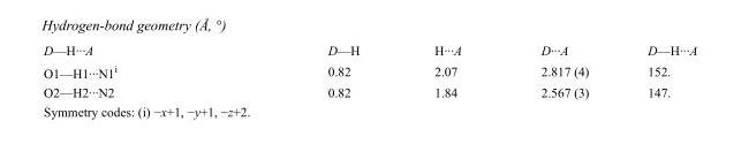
<table><tbody><tr><td>D—H···A</td><td>D—H</td><td>H···A</td><td>D···A</td><td>D—H···A</td></tr><tr><td>O1—H1···N1<sup>i</sup></td><td>0.82</td><td>2.07</td><td>2.817 (4)</td><td>152.</td></tr><tr><td>O2—H2···N2</td><td>0.82</td><td>1.84</td><td>2.567 (3)</td><td>147.</td></tr></tbody></table>